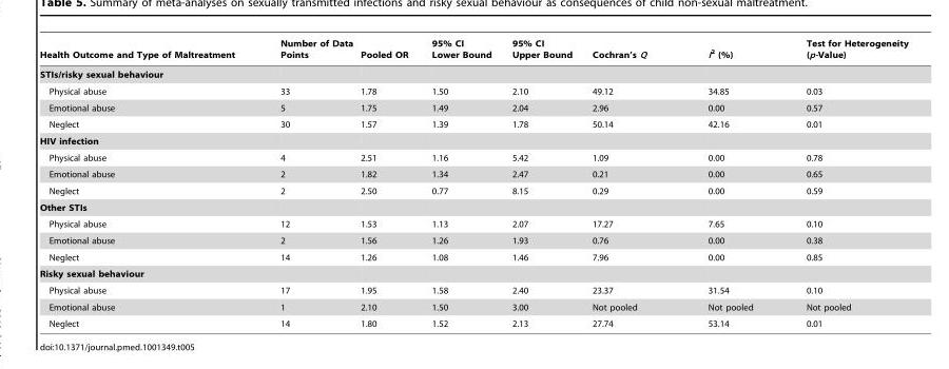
<table><thead><tr><td>Health Outcome and Type of Maltreatment</td><td>Number of Data Points</td><td>Pooled OR</td><td>95% CI Lower Bound</td><td>95% CI Upper Bound</td><td>Cochran’s Q</td><td>I<sup>2</sup> (%)</td><td>Test for Heterogeneity (p-Value)</td></tr></thead><tbody><tr><td colspan="8">STIs/risky sexual behaviour</td></tr><tr><td>Physical abuse</td><td>33</td><td>1.78</td><td>1.50</td><td>2.10</td><td>49.12</td><td>34.85</td><td>0.03</td></tr><tr><td>Emotional abuse</td><td>5</td><td>1.75</td><td>1.49</td><td>2.04</td><td>2.96</td><td>0.00</td><td>0.57</td></tr><tr><td>Neglect</td><td>30</td><td>1.57</td><td>1.39</td><td>1.78</td><td>50.14</td><td>42.16</td><td>0.01</td></tr><tr><td colspan="8">HIV infection</td></tr><tr><td>Physical abuse</td><td>4</td><td>2.51</td><td>1.16</td><td>5.42</td><td>1.09</td><td>0.00</td><td>0.78</td></tr><tr><td>Emotional abuse</td><td>2</td><td>1.82</td><td>1.34</td><td>2.47</td><td>0.21</td><td>0.00</td><td>0.65</td></tr><tr><td>Neglect</td><td>2</td><td>2.50</td><td>0.77</td><td>8.15</td><td>0.29</td><td>0.00</td><td>0.59</td></tr><tr><td colspan="8">Other STIs</td></tr><tr><td>Physical abuse</td><td>12</td><td>1.53</td><td>1.13</td><td>2.07</td><td>17.27</td><td>7.65</td><td>0.10</td></tr><tr><td>Emotional abuse</td><td>2</td><td>1.56</td><td>1.26</td><td>1.93</td><td>0.76</td><td>0.00</td><td>0.38</td></tr><tr><td>Neglect</td><td>14</td><td>1.26</td><td>1.08</td><td>1.46</td><td>7.96</td><td>0.00</td><td>0.85</td></tr><tr><td colspan="8">Risky sexual behaviour</td></tr><tr><td>Physical abuse</td><td>17</td><td>1.95</td><td>1.58</td><td>2.40</td><td>23.37</td><td>31.54</td><td>0.10</td></tr><tr><td>Emotional abuse</td><td>1</td><td>2.10</td><td>1.50</td><td>3.00</td><td>Not pooled</td><td>Not pooled</td><td>Not pooled</td></tr><tr><td>Neglect</td><td>14</td><td>1.80</td><td>1.52</td><td>2.13</td><td>27.74</td><td>53.14</td><td>0.01</td></tr></tbody></table>